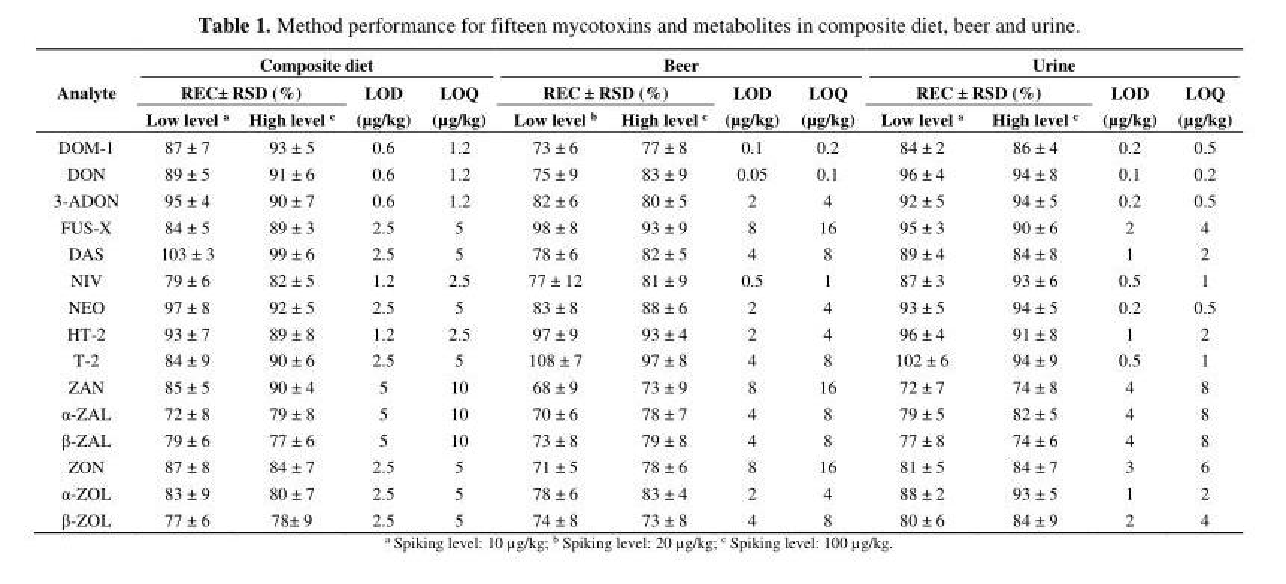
<table><thead><tr><td rowspan="3">Analyte</td><td colspan="4">Composite diet</td><td colspan="4">Beer</td><td colspan="4">Urine</td></tr><tr><td colspan="2">REC± RSD (%)</td><td rowspan="2">LOD (µg/kg)</td><td rowspan="2">LOQ (µg/kg)</td><td colspan="2">REC ± RSD (%)</td><td rowspan="2">LOD (µg/kg)</td><td rowspan="2">LOQ (µg/kg)</td><td colspan="2">REC ± RSD (%)</td><td rowspan="2">LOD (µg/kg)</td><td rowspan="2">LOQ (µg/kg)</td></tr><tr><td>Low level <sup>a</sup></td><td>High level <sup>c</sup></td><td>Low level <sup>b</sup></td><td>High level <sup>c</sup></td><td>Low level <sup>a</sup></td><td>High level <sup>c</sup></td></tr></thead><tbody><tr><td>DOM-1</td><td>87 ± 7</td><td>93 ± 5</td><td>0.6</td><td>1.2</td><td>73 ± 6</td><td>77 ± 8</td><td>0.1</td><td>0.2</td><td>84 ± 2</td><td>86 ± 4</td><td>0.2</td><td>0.5</td></tr><tr><td>DON</td><td>89 ± 5</td><td>91 ± 6</td><td>0.6</td><td>1.2</td><td>75 ± 9</td><td>83 ± 9</td><td>0.05</td><td>0.1</td><td>96 ± 4</td><td>94 ± 8</td><td>0.1</td><td>0.2</td></tr><tr><td>3-ADON</td><td>95 ± 4</td><td>90 ± 7</td><td>0.6</td><td>1.2</td><td>82 ± 6</td><td>80 ± 5</td><td>2</td><td>4</td><td>92 ± 5</td><td>94 ± 5</td><td>0.2</td><td>0.5</td></tr><tr><td>FUS-X</td><td>84 ± 5</td><td>89 ± 3</td><td>2.5</td><td>5</td><td>98 ± 8</td><td>93 ± 9</td><td>8</td><td>16</td><td>95 ± 3</td><td>90 ± 6</td><td>2</td><td>4</td></tr><tr><td>DAS</td><td>103 ± 3</td><td>99 ± 6</td><td>2.5</td><td>5</td><td>78 ± 6</td><td>82 ± 5</td><td>4</td><td>8</td><td>89 ± 4</td><td>84 ± 8</td><td>1</td><td>2</td></tr><tr><td>NIV</td><td>79 ± 6</td><td>82 ± 5</td><td>1.2</td><td>2.5</td><td>77 ± 12</td><td>81 ± 9</td><td>0.5</td><td>1</td><td>87 ± 3</td><td>93 ± 6</td><td>0.5</td><td>1</td></tr><tr><td>NEO</td><td>97 ± 8</td><td>92 ± 5</td><td>2.5</td><td>5</td><td>83 ± 8</td><td>88 ± 6</td><td>2</td><td>4</td><td>93 ± 5</td><td>94 ± 5</td><td>0.2</td><td>0.5</td></tr><tr><td>HT-2</td><td>93 ± 7</td><td>89 ± 8</td><td>1.2</td><td>2.5</td><td>97 ± 9</td><td>93 ± 4</td><td>2</td><td>4</td><td>96 ± 4</td><td>91 ± 8</td><td>1</td><td>2</td></tr><tr><td>T-2</td><td>84 ± 9</td><td>90 ± 6</td><td>2.5</td><td>5</td><td>108 ± 7</td><td>97 ± 8</td><td>4</td><td>8</td><td>102 ± 6</td><td>94 ± 9</td><td>0.5</td><td>1</td></tr><tr><td>ZAN</td><td>85 ± 5</td><td>90 ± 4</td><td>5</td><td>10</td><td>68 ± 9</td><td>73 ± 9</td><td>8</td><td>16</td><td>72 ± 7</td><td>74 ± 8</td><td>4</td><td>8</td></tr><tr><td>α-ZAL</td><td>72 ± 8</td><td>79 ± 8</td><td>5</td><td>10</td><td>70 ± 6</td><td>78 ± 7</td><td>4</td><td>8</td><td>79 ± 5</td><td>82 ± 5</td><td>4</td><td>8</td></tr><tr><td>β-ZAL</td><td>79 ± 6</td><td>77 ± 6</td><td>5</td><td>10</td><td>73 ± 8</td><td>79 ± 8</td><td>4</td><td>8</td><td>77 ± 8</td><td>74 ± 6</td><td>4</td><td>8</td></tr><tr><td>ZON</td><td>87 ± 8</td><td>84 ± 7</td><td>2.5</td><td>5</td><td>71 ± 5</td><td>78 ± 6</td><td>8</td><td>16</td><td>81 ± 5</td><td>84 ± 7</td><td>3</td><td>6</td></tr><tr><td>α-ZOL</td><td>83 ± 9</td><td>80 ± 7</td><td>2.5</td><td>5</td><td>78 ± 6</td><td>83 ± 4</td><td>2</td><td>4</td><td>88 ± 2</td><td>93 ± 5</td><td>1</td><td>2</td></tr><tr><td>β-ZOL</td><td>77 ± 6</td><td>78± 9</td><td>2.5</td><td>5</td><td>74 ± 8</td><td>73 ± 8</td><td>4</td><td>8</td><td>80 ± 6</td><td>84 ± 9</td><td>2</td><td>4</td></tr></tbody></table>